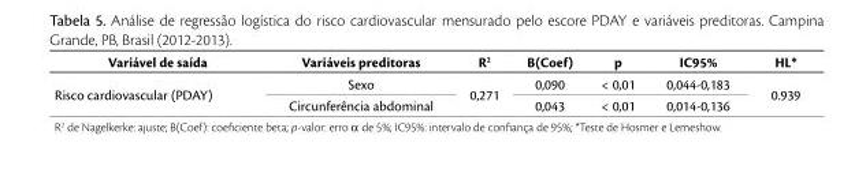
<table><thead><tr><td>Variável de saída</td><td>Variáveis preditoras</td><td>R<sup>2</sup></td><td>B(Coef)</td><td>p</td><td>IC95%</td><td>HL*</td></tr></thead><tbody><tr><td rowspan="2">Risco cardiovascular (PDAY)</td><td>Sexo</td><td rowspan="2">0,271</td><td>0,090</td><td>&lt; 0,01</td><td>0,044-0,183</td><td rowspan="2">0.939</td></tr><tr><td>Circunferência abdominal</td><td>0,043</td><td>&lt; 0,01</td><td>0,014-0,136</td></tr></tbody></table>